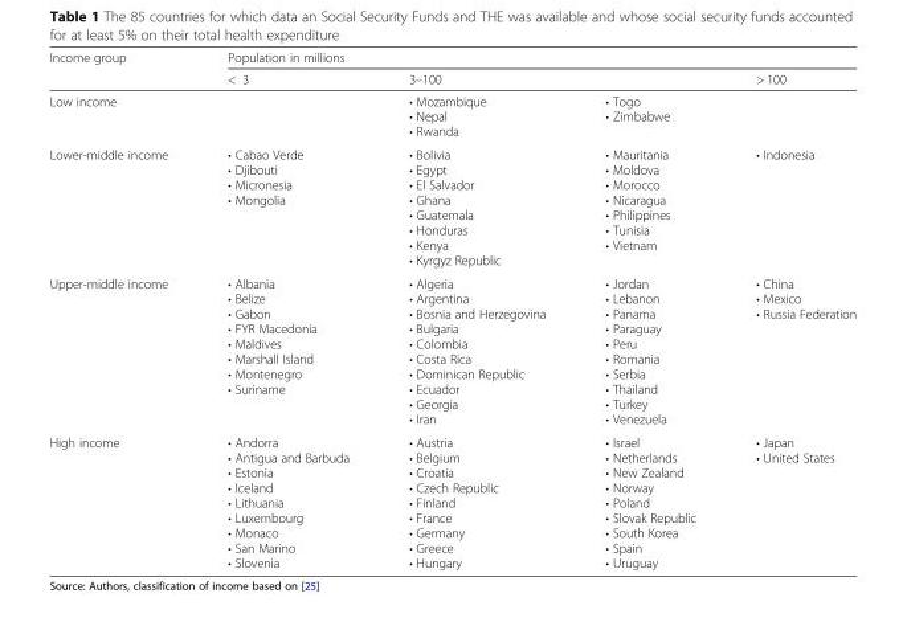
<table><thead><tr><td rowspan="3">Income group Low income</td><td colspan="4">Population in millions</td></tr><tr><td rowspan="2">&lt; 3</td><td colspan="2">3–100</td><td rowspan="2">&gt; 100</td></tr><tr><td>• Mozambique • Nepal • Rwanda</td><td>• Togo • Zimbabwe</td></tr></thead><tbody><tr><td>Lower-middle income</td><td>• Cabao Verde • Djibouti • Micronesia • Mongolia</td><td>• Bolivia • Egypt • El Salvador • Ghana • Guatemala • Honduras • Kenya • Kyrgyz Republic</td><td>• Mauritania • Moldova • Morocco • Nicaragua • Philippines • Tunisia • Vietnam</td><td>• Indonesia</td></tr><tr><td>Upper-middle income</td><td>• Albania • Belize • Gabon • FYR Macedonia • Maldives • Marshall Island • Montenegro • Suriname</td><td>• Algeria • Argentina • Bosnia and Herzegovina • Bulgaria • Colombia • Costa Rica • Dominican Republic • Ecuador • Georgia • Iran</td><td>• Jordan • Lebanon • Panama • Paraguay • Peru • Romania • Serbia • Thailand • Turkey • Venezuela</td><td>• China • Mexico • Russia Federation</td></tr><tr><td>High income</td><td>• Andorra • Antigua and Barbuda • Estonia • Iceland • Lithuania • Luxembourg • Monaco • San Marino • Slovenia</td><td>• Austria • Belgium • Croatia • Czech Republic • Finland • France • Germany • Greece • Hungary</td><td>• Israel • Netherlands • New Zealand • Norway • Poland • Slovak Republic • South Korea • Spain • Uruguay</td><td>• Japan • United States</td></tr></tbody></table>